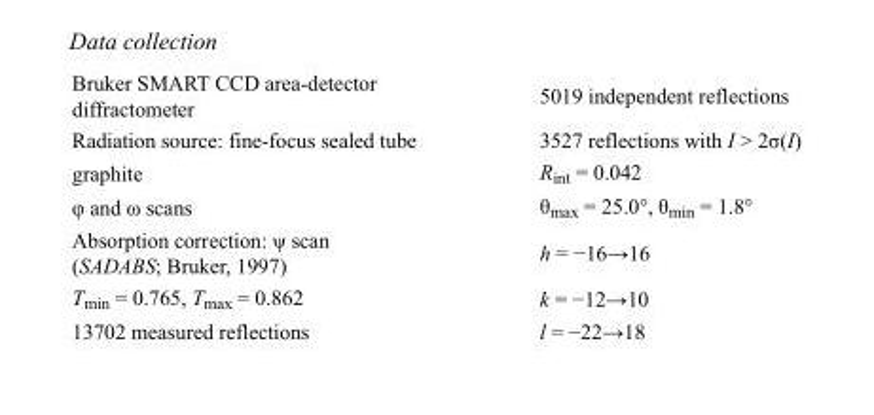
<table><tbody><tr><td>Bruker SMART CCD area-detector diffractometer</td><td>5019 independent reflections</td></tr><tr><td>Radiation source: fine-focus sealed tube</td><td>3527 reflections with I &gt; 2σ(I)</td></tr><tr><td>graphite</td><td>R<sub>int</sub> = 0.042</td></tr><tr><td>φ and ω scans</td><td>θ<sub>max</sub> = 25.0°, θ<sub>min</sub> = 1.8°</td></tr><tr><td>Absorption correction: ψ scan (SADABS; Bruker, 1997)</td><td>h = −16→16</td></tr><tr><td>T<sub>min</sub> = 0.765, T<sub>max</sub> = 0.862</td><td>k = −12→10</td></tr><tr><td>13702 measured reflections</td><td>l = −22→18</td></tr></tbody></table>